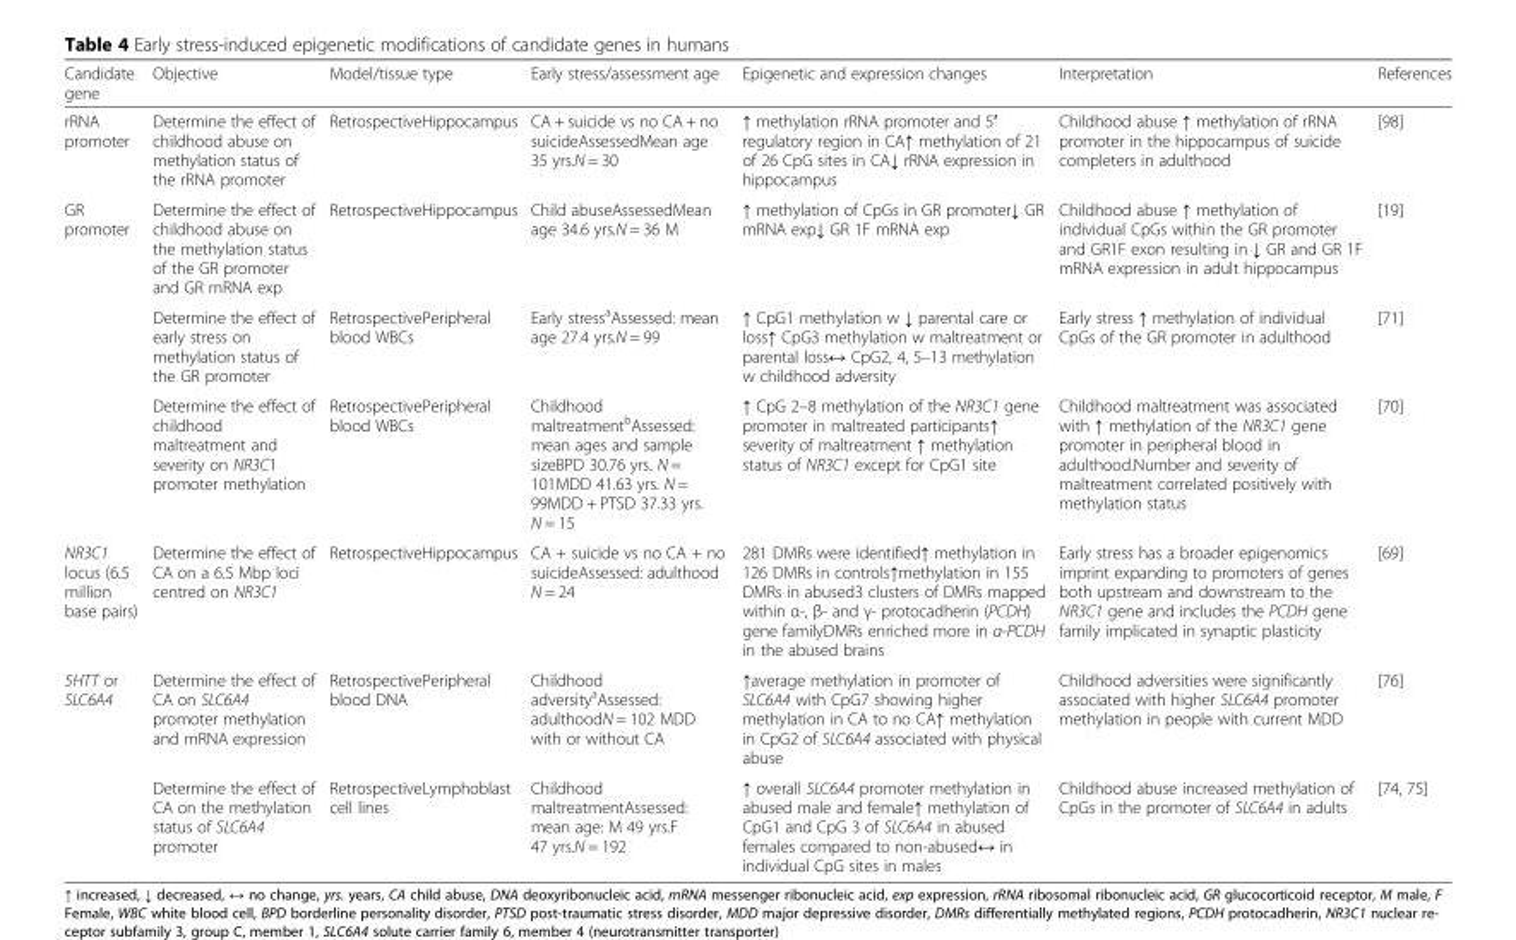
<table><thead><tr><td>Candidate gene</td><td>Objective</td><td>Model/tissue type</td><td>Early stress/assessment age</td><td>Epigenetic and expression changes</td><td>Interpretation</td><td>References</td></tr></thead><tbody><tr><td>rRNA promoter</td><td>Determine the effect of childhood abuse on methylation status of the rRNA promoter</td><td>RetrospectiveHippocampus</td><td>CA + suicide vs no CA + no suicideAssessedMean age 35 yrs.N = 30</td><td>↑ methylation rRNA promoter and 5′ regulatory region in CA↑ methylation of 21 of 26 CpG sites in CA↓ rRNA expression in hippocampus</td><td>Childhood abuse ↑ methylation of rRNA promoter in the hippocampus of suicide completers in adulthood</td><td>[98]</td></tr><tr><td rowspan="3">GR promoter</td><td>Determine the effect of childhood abuse on the methylation status of the GR promoter and GR mRNA exp</td><td>RetrospectiveHippocampus</td><td>Child abuseAssessedMean age 34.6 yrs.N = 36 M</td><td>↑ methylation of CpGs in GR promoter↓ GR mRNA exp↓ GR 1F mRNA exp</td><td>Childhood abuse ↑ methylation of individual CpGs within the GR promoter and GR1F exon resulting in ↓ GR and GR 1F mRNA expression in adult hippocampus</td><td>[19]</td></tr><tr><td>Determine the effect of early stress on methylation status of the GR promoter</td><td>RetrospectivePeripheral blood WBCs</td><td>Early stress<sup>a</sup>Assessed: mean age 27.4 yrs.N = 99</td><td>↑ CpG1 methylation w ↓ parental care or loss↑ CpG3 methylation w maltreatment or parental loss↔ CpG2, 4, 5–13 methylation w childhood adversity</td><td>Early stress ↑ methylation of individual CpGs of the GR promoter in adulthood</td><td>[71]</td></tr><tr><td>Determine the effect of childhood maltreatment and severity on NR3C1 promoter methylation</td><td>RetrospectivePeripheral blood WBCs</td><td>Childhood maltreatment<sup>b</sup>Assessed: mean ages and sample sizeBPD 30.76 yrs. N = 101MDD 41.63 yrs. N = 99MDD + PTSD 37.33 yrs. N = 15</td><td>↑ CpG 2–8 methylation of the NR3C1 gene promoter in maltreated participants↑ severity of maltreatment ↑ methylation status of NR3C1 except for CpG1 site</td><td>Childhood maltreatment was associated with ↑ methylation of the NR3C1 gene promoter in peripheral blood in adulthood.Number and severity of maltreatment correlated positively with methylation status</td><td>[70]</td></tr><tr><td>NR3C1 locus (6.5 million base pairs)</td><td>Determine the effect of CA on a 6.5 Mbp loci centred on NR3C1</td><td>RetrospectiveHippocampus</td><td>CA + suicide vs no CA + no suicideAssessed: adulthood N = 24</td><td>281 DMRs were identified↑ methylation in 126 DMRs in controls↑methylation in 155 DMRs in abused3 clusters of DMRs mapped within α-, β- and γ- protocadherin (PCDH) gene familyDMRs enriched more in α-PCDH in the abused brains</td><td>Early stress has a broader epigenomics imprint expanding to promoters of genes both upstream and downstream to the NR3C1 gene and includes the PCDH gene family implicated in synaptic plasticity</td><td>[69]</td></tr><tr><td rowspan="2">5HTT or SLC6A4</td><td>Determine the effect of CA on SLC6A4 promoter methylation and mRNA expression</td><td>RetrospectivePeripheral blood DNA</td><td>Childhood adversity<sup>a</sup>Assessed: adulthoodN = 102 MDD with or without CA</td><td>↑average methylation in promoter of SLC6A4 with CpG7 showing higher methylation in CA to no CA↑ methylation in CpG2 of SLC6A4 associated with physical abuse</td><td>Childhood adversities were significantly associated with higher SLC6A4 promoter methylation in people with current MDD</td><td>[76]</td></tr><tr><td>Determine the effect of CA on the methylation status of SLC6A4 promoter</td><td>RetrospectiveLymphoblast cell lines</td><td>Childhood maltreatmentAssessed: mean age: M 49 yrs.F 47 yrs.N = 192</td><td>↑ overall SLC6A4 promoter methylation in abused male and female↑ methylation of CpG1 and CpG 3 of SLC6A4 in abused females compared to non-abused↔ in individual CpG sites in males</td><td>Childhood abuse increased methylation of CpGs in the promoter of SLC6A4 in adults</td><td>[74, 75]</td></tr></tbody></table>